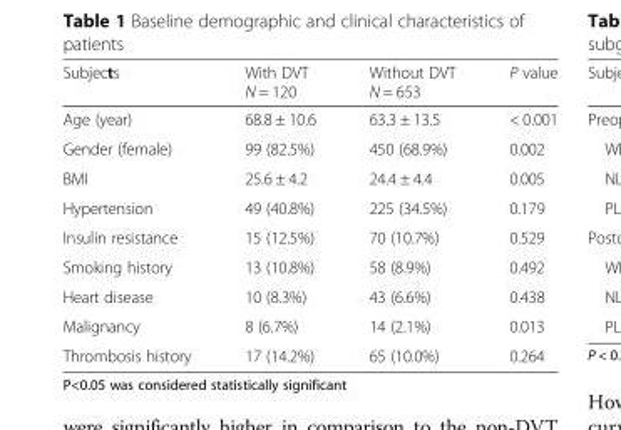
<table><thead><tr><td>Subjects</td><td>With DVT N = 120</td><td>Without DVT N = 653</td><td>P value</td></tr></thead><tbody><tr><td>Age (year)</td><td>68.8 ± 10.6</td><td>63.3 ± 13.5</td><td>&lt; 0.001</td></tr><tr><td>Gender (female)</td><td>99 (82.5%)</td><td>450 (68.9%)</td><td>0.002</td></tr><tr><td>BMI</td><td>25.6 ± 4.2</td><td>24.4 ± 4.4</td><td>0.005</td></tr><tr><td>Hypertension</td><td>49 (40.8%)</td><td>225 (34.5%)</td><td>0.179</td></tr><tr><td>Insulin resistance</td><td>15 (12.5%)</td><td>70 (10.7%)</td><td>0.529</td></tr><tr><td>Smoking history</td><td>13 (10.8%)</td><td>58 (8.9%)</td><td>0.492</td></tr><tr><td>Heart disease</td><td>10 (8.3%)</td><td>43 (6.6%)</td><td>0.438</td></tr><tr><td>Malignancy</td><td>8 (6.7%)</td><td>14 (2.1%)</td><td>0.013</td></tr><tr><td>Thrombosis history</td><td>17 (14.2%)</td><td>65 (10.0%)</td><td>0.264</td></tr></tbody></table>